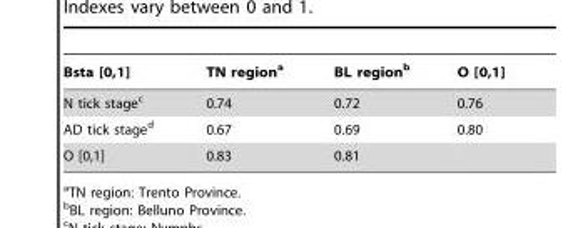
<table><thead><tr><td>Bsta [0,1]</td><td>TN region<sup>a</sup></td><td>BL region<sup>b</sup></td><td>O [0,1]</td></tr></thead><tbody><tr><td>N tick stage<sup>c</sup></td><td>0.74</td><td>0.72</td><td>0.76</td></tr><tr><td>AD tick stage<sup>d</sup></td><td>0.67</td><td>0.69</td><td>0.80</td></tr><tr><td>O [0,1]</td><td>0.83</td><td>0.81</td><td></td></tr></tbody></table>